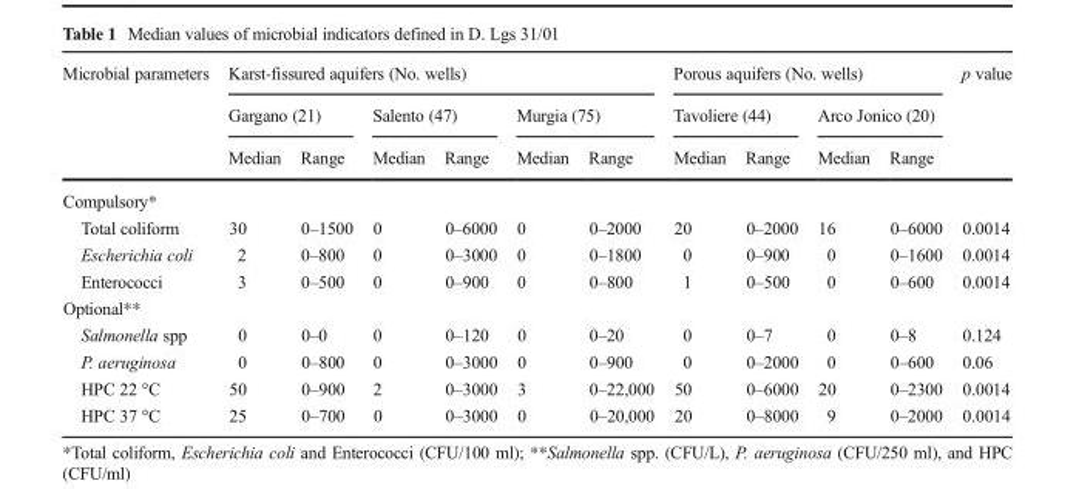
<table><thead><tr><td rowspan="3">Microbial parameters</td><td colspan="6">Karst-fissured aquifers (No. wells)</td><td colspan="4">Porous aquifers (No. wells)</td><td rowspan="3">p value</td></tr><tr><td colspan="2">Gargano (21)</td><td colspan="2">Salento (47)</td><td colspan="2">Murgia (75)</td><td colspan="2">Tavoliere (44)</td><td colspan="2">Arco Jonico (20)</td></tr><tr><td>Median</td><td>Range</td><td>Median</td><td>Range</td><td>Median</td><td>Range</td><td>Median</td><td>Range</td><td>Median</td><td>Range</td></tr></thead><tbody><tr><td colspan="12">Compulsory*</td></tr><tr><td>Total coliform</td><td>30</td><td>0–1500</td><td>0</td><td>0–6000</td><td>0</td><td>0–2000</td><td>20</td><td>0–2000</td><td>16</td><td>0–6000</td><td>0.0014</td></tr><tr><td>Escherichia coli</td><td>2</td><td>0–800</td><td>0</td><td>0–3000</td><td>0</td><td>0–1800</td><td>0</td><td>0–900</td><td>0</td><td>0–1600</td><td>0.0014</td></tr><tr><td>Enterococci</td><td>3</td><td>0–500</td><td>0</td><td>0–900</td><td>0</td><td>0–800</td><td>1</td><td>0–500</td><td>0</td><td>0–600</td><td>0.0014</td></tr><tr><td colspan="12">Optional**</td></tr><tr><td>Salmonella spp</td><td>0</td><td>0–0</td><td>0</td><td>0–120</td><td>0</td><td>0–20</td><td>0</td><td>0–7</td><td>0</td><td>0–8</td><td>0.124</td></tr><tr><td>P. aeruginosa</td><td>0</td><td>0–800</td><td>0</td><td>0–3000</td><td>0</td><td>0–900</td><td>0</td><td>0–2000</td><td>0</td><td>0–600</td><td>0.06</td></tr><tr><td>HPC 22 °C</td><td>50</td><td>0–900</td><td>2</td><td>0–3000</td><td>3</td><td>0–22,000</td><td>50</td><td>0–6000</td><td>20</td><td>0–2300</td><td>0.0014</td></tr><tr><td>HPC 37 °C</td><td>25</td><td>0–700</td><td>0</td><td>0–3000</td><td>0</td><td>0–20,000</td><td>20</td><td>0–8000</td><td>9</td><td>0–2000</td><td>0.0014</td></tr></tbody></table>